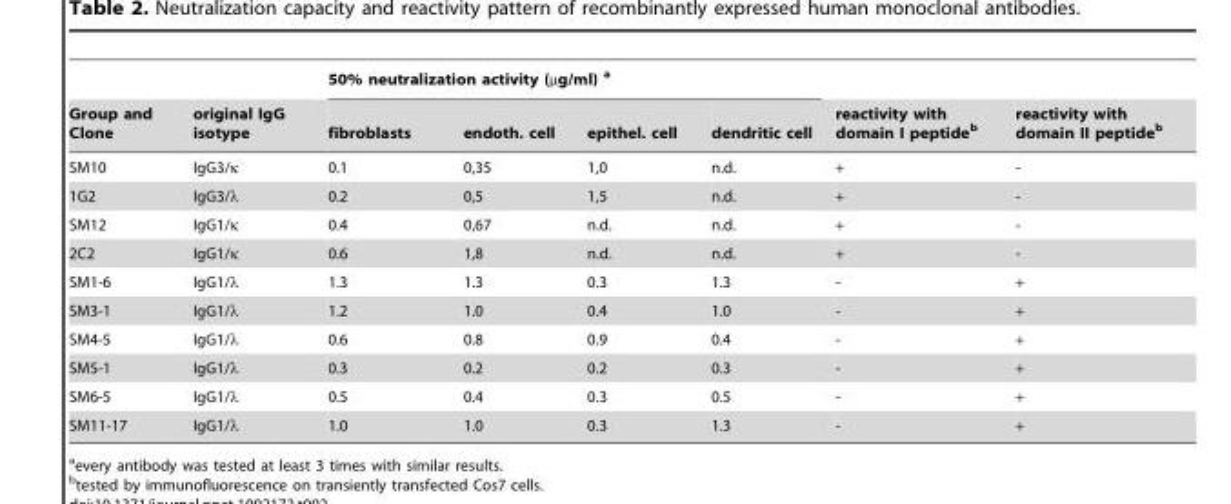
<table><thead><tr><td rowspan="2">Group and Clone</td><td rowspan="2">original IgG isotype</td><td colspan="4">50% neutralization activity (µg/ml) a</td><td rowspan="2">reactivity with domain I peptide<sup>b</sup></td><td rowspan="2">reactivity with domain II peptide<sup>b</sup></td></tr><tr><td>fibroblasts</td><td>endoth. cell</td><td>epithel. cell</td><td>dendritic cell</td></tr></thead><tbody><tr><td>SM10</td><td>IgG3/κ</td><td>0.1</td><td>0,35</td><td>1,0</td><td>n.d.</td><td>+</td><td>-</td></tr><tr><td>1G2</td><td>IgG3/λ</td><td>0.2</td><td>0,5</td><td>1,5</td><td>n.d.</td><td>+</td><td>-</td></tr><tr><td>SM12</td><td>IgG1/κ</td><td>0.4</td><td>0,67</td><td>n.d.</td><td>n.d.</td><td>+</td><td>-</td></tr><tr><td>2C2</td><td>IgG1/κ</td><td>0.6</td><td>1,8</td><td>n.d.</td><td>n.d.</td><td>+</td><td>-</td></tr><tr><td>SM1-6</td><td>IgG1/λ</td><td>1.3</td><td>1.3</td><td>0.3</td><td>1.3</td><td>-</td><td>+</td></tr><tr><td>SM3-1</td><td>IgG1/λ</td><td>1.2</td><td>1.0</td><td>0.4</td><td>1.0</td><td>-</td><td>+</td></tr><tr><td>SM4-5</td><td>IgG1/λ</td><td>0.6</td><td>0.8</td><td>0.9</td><td>0.4</td><td>-</td><td>+</td></tr><tr><td>SM5-1</td><td>IgG1/λ</td><td>0.3</td><td>0.2</td><td>0.2</td><td>0.3</td><td>-</td><td>+</td></tr><tr><td>SM6-5</td><td>IgG1/λ</td><td>0.5</td><td>0.4</td><td>0.3</td><td>0.5</td><td>-</td><td>+</td></tr><tr><td>SM11-17</td><td>IgG1/λ</td><td>1.0</td><td>1.0</td><td>0.3</td><td>1.3</td><td>-</td><td>+</td></tr></tbody></table>